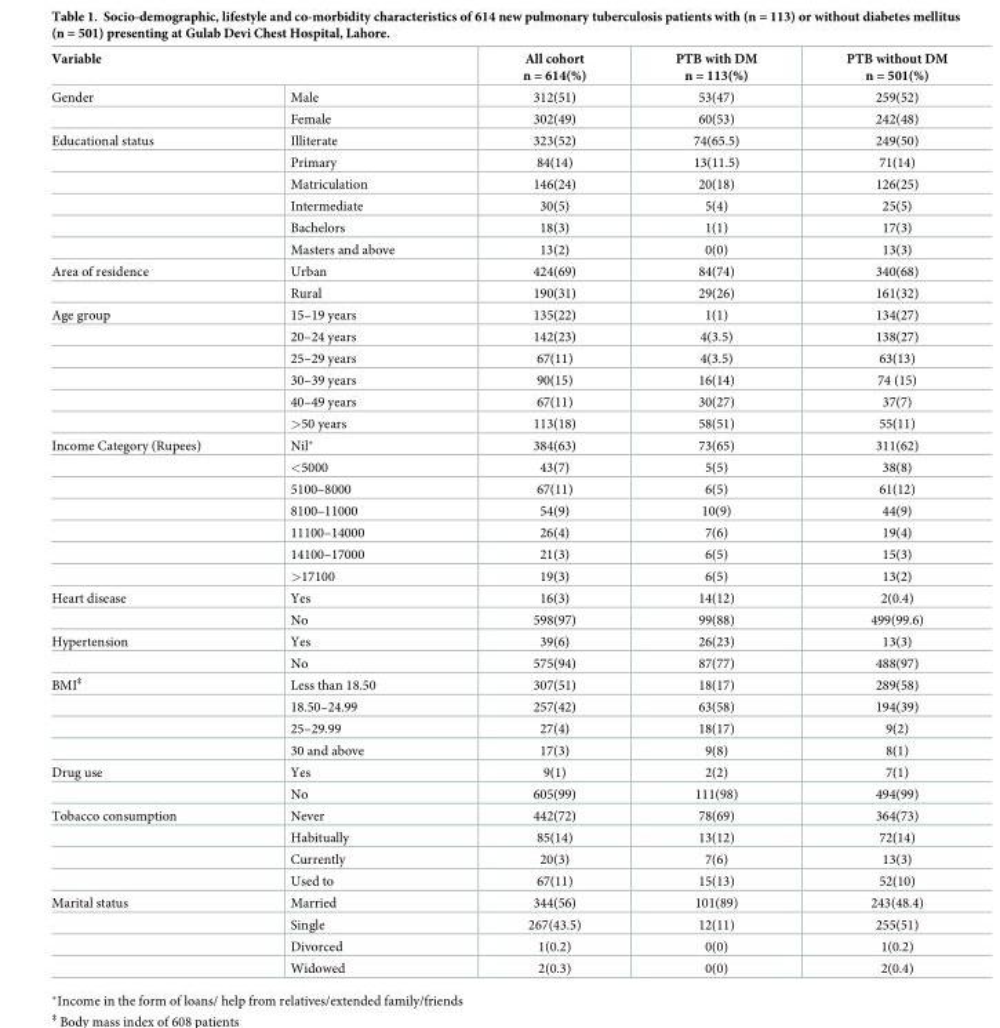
<table><thead><tr><td colspan="2">Variable</td><td rowspan="2">All cohort n = 614(%) 312(51)</td><td rowspan="2">PTB with DM n = 113(%) 53(47)</td><td rowspan="2">PTB without DM n = 501(%) 259(52)</td></tr><tr><td>Gender</td><td>Male</td></tr></thead><tbody><tr><td></td><td>Female</td><td>302(49)</td><td>60(53)</td><td>242(48)</td></tr><tr><td rowspan="6">Educational status</td><td>Illiterate</td><td>323(52)</td><td>74(65.5)</td><td>249(50)</td></tr><tr><td>Primary</td><td>84(14)</td><td>13(11.5)</td><td>71(14)</td></tr><tr><td>Matriculation</td><td>146(24)</td><td>20(18)</td><td>126(25)</td></tr><tr><td>Intermediate</td><td>30(5)</td><td>5(4)</td><td>25(5)</td></tr><tr><td>Bachelors</td><td>18(3)</td><td>1(1)</td><td>17(3)</td></tr><tr><td>Masters and above</td><td>13(2)</td><td>0(0)</td><td>13(3)</td></tr><tr><td rowspan="2">Area of residence</td><td>Urban</td><td>424(69)</td><td>84(74)</td><td>340(68)</td></tr><tr><td>Rural</td><td>190(31)</td><td>29(26)</td><td>161(32)</td></tr><tr><td rowspan="6">Age group</td><td>15–19 years</td><td>135(22)</td><td>1(1)</td><td>134(27)</td></tr><tr><td>20–24 years</td><td>142(23)</td><td>4(3.5)</td><td>138(27)</td></tr><tr><td>25–29 years</td><td>67(11)</td><td>4(3.5)</td><td>63(13)</td></tr><tr><td>30–39 years</td><td>90(15)</td><td>16(14)</td><td>74 (15)</td></tr><tr><td>40–49 years</td><td>67(11)</td><td>30(27)</td><td>37(7)</td></tr><tr><td>&gt;50 years</td><td>113(18)</td><td>58(51)</td><td>55(11)</td></tr><tr><td rowspan="7">Income Category (Rupees)</td><td>Nil*</td><td>384(63)</td><td>73(65)</td><td>311(62)</td></tr><tr><td>&lt;5000</td><td>43(7)</td><td>5(5)</td><td>38(8)</td></tr><tr><td>5100–8000</td><td>67(11)</td><td>6(5)</td><td>61(12)</td></tr><tr><td>8100–11000</td><td>54(9)</td><td>10(9)</td><td>44(9)</td></tr><tr><td>11100–14000</td><td>26(4)</td><td>7(6)</td><td>19(4)</td></tr><tr><td>14100–17000</td><td>21(3)</td><td>6(5)</td><td>15(3)</td></tr><tr><td>&gt;17100</td><td>19(3)</td><td>6(5)</td><td>13(2)</td></tr><tr><td rowspan="2">Heart disease</td><td>Yes</td><td>16(3)</td><td>14(12)</td><td>2(0.4)</td></tr><tr><td>No</td><td>598(97)</td><td>99(88)</td><td>499(99.6)</td></tr><tr><td rowspan="2">Hypertension</td><td>Yes</td><td>39(6)</td><td>26(23)</td><td>13(3)</td></tr><tr><td>No</td><td>575(94)</td><td>87(77)</td><td>488(97)</td></tr><tr><td rowspan="4">BMI<sup>‡</sup></td><td>Less than 18.50</td><td>307(51)</td><td>18(17)</td><td>289(58)</td></tr><tr><td>18.50–24.99</td><td>257(42)</td><td>63(58)</td><td>194(39)</td></tr><tr><td>25–29.99</td><td>27(4)</td><td>18(17)</td><td>9(2)</td></tr><tr><td>30 and above</td><td>17(3)</td><td>9(8)</td><td>8(1)</td></tr><tr><td rowspan="2">Drug use</td><td>Yes</td><td>9(1)</td><td>2(2)</td><td>7(1)</td></tr><tr><td>No</td><td>605(99)</td><td>111(98)</td><td>494(99)</td></tr><tr><td rowspan="4">Tobacco consumption</td><td>Never</td><td>442(72)</td><td>78(69)</td><td>364(73)</td></tr><tr><td>Habitually</td><td>85(14)</td><td>13(12)</td><td>72(14)</td></tr><tr><td>Currently</td><td>20(3)</td><td>7(6)</td><td>13(3)</td></tr><tr><td>Used to</td><td>67(11)</td><td>15(13)</td><td>52(10)</td></tr><tr><td rowspan="4">Marital status</td><td>Married</td><td>344(56)</td><td>101(89)</td><td>243(48.4)</td></tr><tr><td>Single</td><td>267(43.5)</td><td>12(11)</td><td>255(51)</td></tr><tr><td>Divorced</td><td>1(0.2)</td><td>0(0)</td><td>1(0.2)</td></tr><tr><td>Widowed</td><td>2(0.3)</td><td>0(0)</td><td>2(0.4)</td></tr></tbody></table>